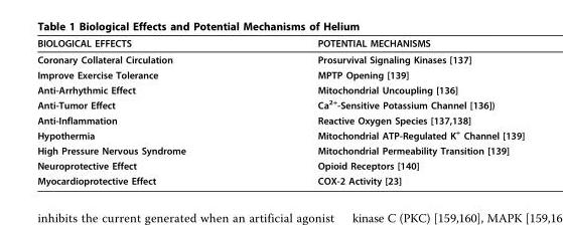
<table><thead><tr><td>BIOLOGICAL EFFECTS</td><td>POTENTIAL MECHANISMS</td></tr></thead><tbody><tr><td>Coronary Collateral Circulation</td><td>Prosurvival Signaling Kinases [137]</td></tr><tr><td>Improve Exercise Tolerance</td><td>MPTP Opening [139]</td></tr><tr><td>Anti-Arrhythmic Effect</td><td>Mitochondrial Uncoupling [136]</td></tr><tr><td>Anti-Tumor Effect</td><td>Ca<sup>2+</sup>-Sensitive Potassium Channel [136])</td></tr><tr><td>Anti-Inflammation</td><td>Reactive Oxygen Species [137,138]</td></tr><tr><td>Hypothermia</td><td>Mitochondrial ATP-Regulated K<sup>+</sup> Channel [139]</td></tr><tr><td>High Pressure Nervous Syndrome</td><td>Mitochondrial Permeability Transition [139]</td></tr><tr><td>Neuroprotective Effect</td><td>Opioid Receptors [140]</td></tr><tr><td>Myocardioprotective Effect</td><td>COX-2 Activity [23]</td></tr></tbody></table>